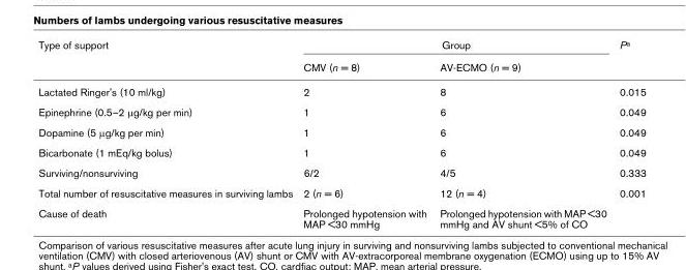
<table><thead><tr><td rowspan="2">Type of support</td><td colspan="2">Group</td><td rowspan="2">Pa</td></tr><tr><td>CMV (n = 8)</td><td>AV-ECMO (n = 9)</td></tr></thead><tbody><tr><td>Lactated Ringer&#x27;s (10 ml/kg)</td><td>2</td><td>8</td><td>0.015</td></tr><tr><td>Epinephrine (0.5–2 µg/kg per min)</td><td>1</td><td>6</td><td>0.049</td></tr><tr><td>Dopamine (5 µg/kg per min)</td><td>1</td><td>6</td><td>0.049</td></tr><tr><td>Bicarbonate (1 mEq/kg bolus)</td><td>1</td><td>6</td><td>0.049</td></tr><tr><td>Surviving/nonsurviving</td><td>6/2</td><td>4/5</td><td>0.333</td></tr><tr><td>Total number of resuscitative measures in surviving lambs</td><td>2 (n = 6)</td><td>12 (n = 4)</td><td>0.001</td></tr><tr><td>Cause of death</td><td>Prolonged hypotension with MAP &lt;30 mmHg</td><td>Prolonged hypotension with MAP &lt;30 mmHg and AV shunt &lt;5% of CO</td><td></td></tr></tbody></table>